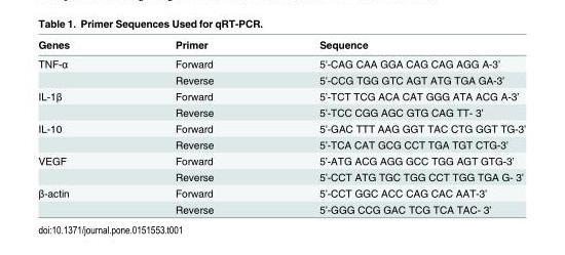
<table><thead><tr><td>Genes</td><td>Primer</td><td>Sequence</td></tr></thead><tbody><tr><td rowspan="2">TNF-α</td><td>Forward</td><td>5’-CAG CAA GGA CAG CAG AGG A-3’</td></tr><tr><td>Reverse</td><td>5’-CCG TGG GTC AGT ATG TGA GA-3’</td></tr><tr><td rowspan="2">IL-1β</td><td>Forward</td><td>5’-TCT TCG ACA CAT GGG ATA ACG A-3’</td></tr><tr><td>Reverse</td><td>5’-TCC CGG AGC GTG CAG TT- 3’</td></tr><tr><td rowspan="2">IL-10</td><td>Forward</td><td>5’-GAC TTT AAG GGT TAC CTG GGT TG-3’</td></tr><tr><td>Reverse</td><td>5’-TCA CAT GCG CCT TGA TGT CTG-3’</td></tr><tr><td rowspan="2">VEGF</td><td>Forward</td><td>5’-ATG ACG AGG GCC TGG AGT GTG-3’</td></tr><tr><td>Reverse</td><td>5’-CCT ATG TGC TGG CCT TGG TGA G- 3’</td></tr><tr><td rowspan="2">β-actin</td><td>Forward</td><td>5’-CCT GGC ACC CAG CAC AAT-3’</td></tr><tr><td>Reverse</td><td>5’-GGG CCG GAC TCG TCA TAC- 3’</td></tr></tbody></table>